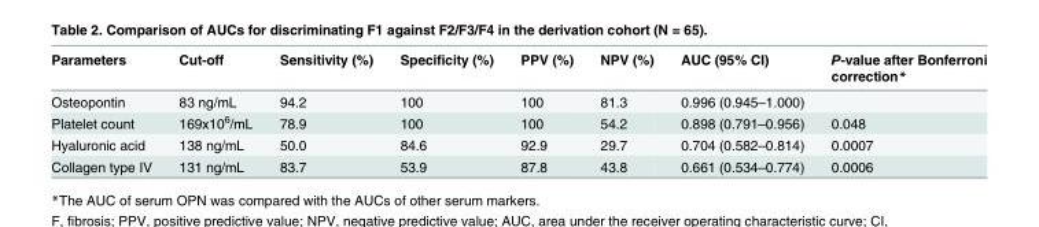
<table><thead><tr><td>Parameters</td><td>Cut-off</td><td>Sensitivity (%)</td><td>Specificity (%)</td><td>PPV (%)</td><td>NPV (%)</td><td>AUC (95% CI)</td><td>P-value after Bonferroni correction*</td></tr></thead><tbody><tr><td>Osteopontin</td><td>83 ng/mL</td><td>94.2</td><td>100</td><td>100</td><td>81.3</td><td>0.996 (0.945–1.000)</td><td></td></tr><tr><td>Platelet count</td><td>169x10<sup>6</sup>/mL</td><td>78.9</td><td>100</td><td>100</td><td>54.2</td><td>0.898 (0.791–0.956)</td><td>0.048</td></tr><tr><td>Hyaluronic acid</td><td>138 ng/mL</td><td>50.0</td><td>84.6</td><td>92.9</td><td>29.7</td><td>0.704 (0.582–0.814)</td><td>0.0007</td></tr><tr><td>Collagen type IV</td><td>131 ng/mL</td><td>83.7</td><td>53.9</td><td>87.8</td><td>43.8</td><td>0.661 (0.534–0.774)</td><td>0.0006</td></tr></tbody></table>